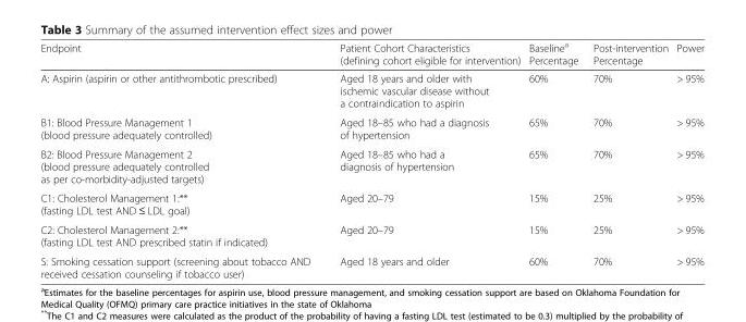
<table><thead><tr><td>Endpoint</td><td>Patient Cohort Characteristics (defining cohort eligible for intervention)</td><td>Baseline<sup>a</sup> Percentage</td><td>Post-intervention Percentage</td><td>Power</td></tr></thead><tbody><tr><td>A: Aspirin (aspirin or other antithrombotic prescribed)</td><td>Aged 18 years and older with ischemic vascular disease without a contraindication to aspirin</td><td>60%</td><td>70%</td><td>&gt; 95%</td></tr><tr><td>B1: Blood Pressure Management 1 (blood pressure adequately controlled)</td><td>Aged 18–85 who had a diagnosis of hypertension</td><td>65%</td><td>70%</td><td>&gt; 95%</td></tr><tr><td>B2: Blood Pressure Management 2 (blood pressure adequately controlled as per co-morbidity-adjusted targets)</td><td>Aged 18–85 who had a diagnosis of hypertension</td><td>65%</td><td>70%</td><td>&gt; 95%</td></tr><tr><td>C1: Cholesterol Management 1:** (fasting LDL test AND ≤ LDL goal)</td><td>Aged 20–79</td><td>15%</td><td>25%</td><td>&gt; 95%</td></tr><tr><td>C2: Cholesterol Management 2:** (fasting LDL test AND prescribed statin if indicated)</td><td>Aged 20–79</td><td>15%</td><td>25%</td><td>&gt; 95%</td></tr><tr><td>S: Smoking cessation support (screening about tobacco AND received cessation counseling if tobacco user)</td><td>Aged 18 years and older</td><td>60%</td><td>70%</td><td>&gt; 95%</td></tr></tbody></table>